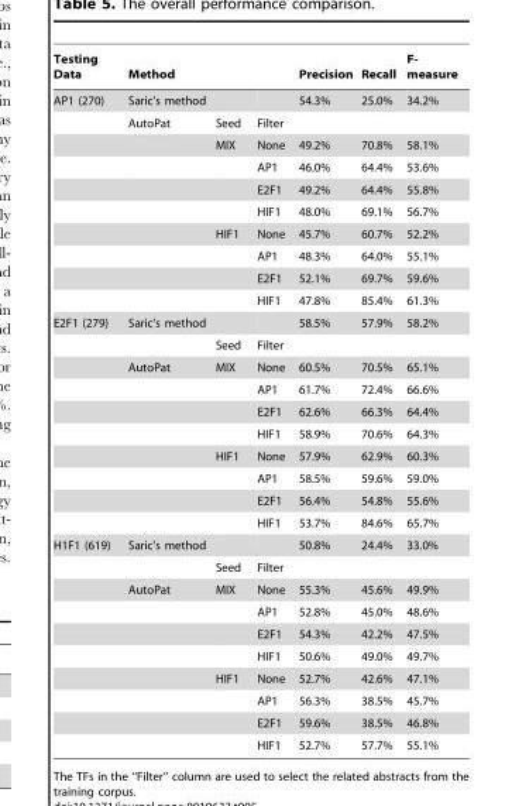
<table><thead><tr><td>Testing Data</td><td>Method</td><td></td><td></td><td>Precision</td><td>Recall</td><td>F- measure</td></tr></thead><tbody><tr><td rowspan="10">AP1 (270)</td><td>Saric’s method</td><td></td><td></td><td>54.3%</td><td>25.0%</td><td>34.2%</td></tr><tr><td>AutoPat</td><td>Seed</td><td>Filter</td><td></td><td></td><td></td></tr><tr><td></td><td>MIX</td><td>None</td><td>49.2%</td><td>70.8%</td><td>58.1%</td></tr><tr><td></td><td></td><td>AP1</td><td>46.0%</td><td>64.4%</td><td>53.6%</td></tr><tr><td></td><td></td><td>E2F1</td><td>49.2%</td><td>64.4%</td><td>55.8%</td></tr><tr><td></td><td></td><td>HIF1</td><td>48.0%</td><td>69.1%</td><td>56.7%</td></tr><tr><td></td><td>HIF1</td><td>None</td><td>45.7%</td><td>60.7%</td><td>52.2%</td></tr><tr><td></td><td></td><td>AP1</td><td>48.3%</td><td>64.0%</td><td>55.1%</td></tr><tr><td></td><td></td><td>E2F1</td><td>52.1%</td><td>69.7%</td><td>59.6%</td></tr><tr><td></td><td></td><td>HIF1</td><td>47.8%</td><td>85.4%</td><td>61.3%</td></tr><tr><td rowspan="10">E2F1 (279)</td><td>Saric’s method</td><td></td><td></td><td>58.5%</td><td>57.9%</td><td>58.2%</td></tr><tr><td></td><td>Seed</td><td>Filter</td><td></td><td></td><td></td></tr><tr><td>AutoPat</td><td>MIX</td><td>None</td><td>60.5%</td><td>70.5%</td><td>65.1%</td></tr><tr><td></td><td></td><td>AP1</td><td>61.7%</td><td>72.4%</td><td>66.6%</td></tr><tr><td></td><td></td><td>E2F1</td><td>62.6%</td><td>66.3%</td><td>64.4%</td></tr><tr><td></td><td></td><td>HIF1</td><td>58.9%</td><td>70.6%</td><td>64.3%</td></tr><tr><td></td><td>HIF1</td><td>None</td><td>57.9%</td><td>62.9%</td><td>60.3%</td></tr><tr><td></td><td></td><td>AP1</td><td>58.5%</td><td>59.6%</td><td>59.0%</td></tr><tr><td></td><td></td><td>E2F1</td><td>56.4%</td><td>54.8%</td><td>55.6%</td></tr><tr><td></td><td></td><td>HIF1</td><td>53.7%</td><td>84.6%</td><td>65.7%</td></tr><tr><td rowspan="10">H1F1 (619)</td><td>Saric’s method</td><td></td><td></td><td>50.8%</td><td>24.4%</td><td>33.0%</td></tr><tr><td></td><td>Seed</td><td>Filter</td><td></td><td></td><td></td></tr><tr><td>AutoPat</td><td>MIX</td><td>None</td><td>55.3%</td><td>45.6%</td><td>49.9%</td></tr><tr><td></td><td></td><td>AP1</td><td>52.8%</td><td>45.0%</td><td>48.6%</td></tr><tr><td></td><td></td><td>E2F1</td><td>54.3%</td><td>42.2%</td><td>47.5%</td></tr><tr><td></td><td></td><td>HIF1</td><td>50.6%</td><td>49.0%</td><td>49.7%</td></tr><tr><td></td><td>HIF1</td><td>None</td><td>52.7%</td><td>42.6%</td><td>47.1%</td></tr><tr><td></td><td></td><td>AP1</td><td>56.3%</td><td>38.5%</td><td>45.7%</td></tr><tr><td></td><td></td><td>E2F1</td><td>59.6%</td><td>38.5%</td><td>46.8%</td></tr><tr><td></td><td></td><td>HIF1</td><td>52.7%</td><td>57.7%</td><td>55.1%</td></tr></tbody></table>